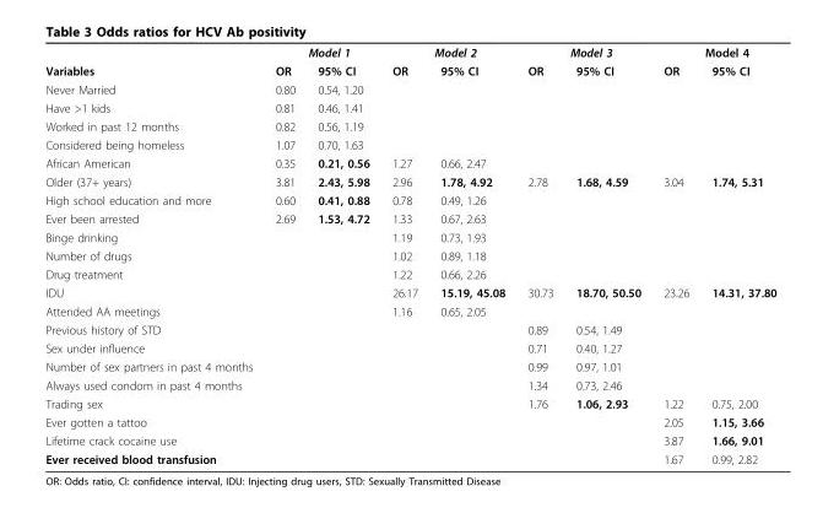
<table><thead><tr><td rowspan="2">Variables</td><td colspan="2">Model 1</td><td colspan="2">Model 2</td><td colspan="2">Model 3</td><td colspan="2">Model 4</td></tr><tr><td>OR</td><td>95% CI</td><td>OR</td><td>95% CI</td><td>OR</td><td>95% CI</td><td>OR</td><td>95% CI</td></tr></thead><tbody><tr><td>Never Married</td><td>0.80</td><td>0.54, 1.20</td><td></td><td></td><td></td><td></td><td></td><td></td></tr><tr><td>Have &gt;1 kids</td><td>0.81</td><td>0.46, 1.41</td><td></td><td></td><td></td><td></td><td></td><td></td></tr><tr><td>Worked in past 12 months</td><td>0.82</td><td>0.56, 1.19</td><td></td><td></td><td></td><td></td><td></td><td></td></tr><tr><td>Considered being homeless</td><td>1.07</td><td>0.70, 1.63</td><td></td><td></td><td></td><td></td><td></td><td></td></tr><tr><td>African American</td><td>0.35</td><td>0.21, 0.56</td><td>1.27</td><td>0.66, 2.47</td><td></td><td></td><td></td><td></td></tr><tr><td>Older (37+ years)</td><td>3.81</td><td>2.43, 5.98</td><td>2.96</td><td>1.78, 4.92</td><td>2.78</td><td>1.68, 4.59</td><td>3.04</td><td>1.74, 5.31</td></tr><tr><td>High school education and more</td><td>0.60</td><td>0.41, 0.88</td><td>0.78</td><td>0.49, 1.26</td><td></td><td></td><td></td><td></td></tr><tr><td>Ever been arrested</td><td>2.69</td><td>1.53, 4.72</td><td>1.33</td><td>0.67, 2.63</td><td></td><td></td><td></td><td></td></tr><tr><td>Binge drinking</td><td></td><td></td><td>1.19</td><td>0.73, 1.93</td><td></td><td></td><td></td><td></td></tr><tr><td>Number of drugs</td><td></td><td></td><td>1.02</td><td>0.89, 1.18</td><td></td><td></td><td></td><td></td></tr><tr><td>Drug treatment</td><td></td><td></td><td>1.22</td><td>0.66, 2.26</td><td></td><td></td><td></td><td></td></tr><tr><td>IDU</td><td></td><td></td><td>26.17</td><td>15.19, 45.08</td><td>30.73</td><td>18.70, 50.50</td><td>23.26</td><td>14.31, 37.80</td></tr><tr><td>Attended AA meetings</td><td></td><td></td><td>1.16</td><td>0.65, 2.05</td><td></td><td></td><td></td><td></td></tr><tr><td>Previous history of STD</td><td></td><td></td><td></td><td></td><td>0.89</td><td>0.54, 1.49</td><td></td><td></td></tr><tr><td>Sex under influence</td><td></td><td></td><td></td><td></td><td>0.71</td><td>0.40, 1.27</td><td></td><td></td></tr><tr><td>Number of sex partners in past 4 months</td><td></td><td></td><td></td><td></td><td>0.99</td><td>0.97, 1.01</td><td></td><td></td></tr><tr><td>Always used condom in past 4 months</td><td></td><td></td><td></td><td></td><td>1.34</td><td>0.73, 2.46</td><td></td><td></td></tr><tr><td>Trading sex</td><td></td><td></td><td></td><td></td><td>1.76</td><td>1.06, 2.93</td><td>1.22</td><td>0.75, 2.00</td></tr><tr><td>Ever gotten a tattoo</td><td></td><td></td><td></td><td></td><td></td><td></td><td>2.05</td><td>1.15, 3.66</td></tr><tr><td>Lifetime crack cocaine use</td><td></td><td></td><td></td><td></td><td></td><td></td><td>3.87</td><td>1.66, 9.01</td></tr><tr><td>Ever received blood transfusion</td><td></td><td></td><td></td><td></td><td></td><td></td><td>1.67</td><td>0.99, 2.82</td></tr></tbody></table>